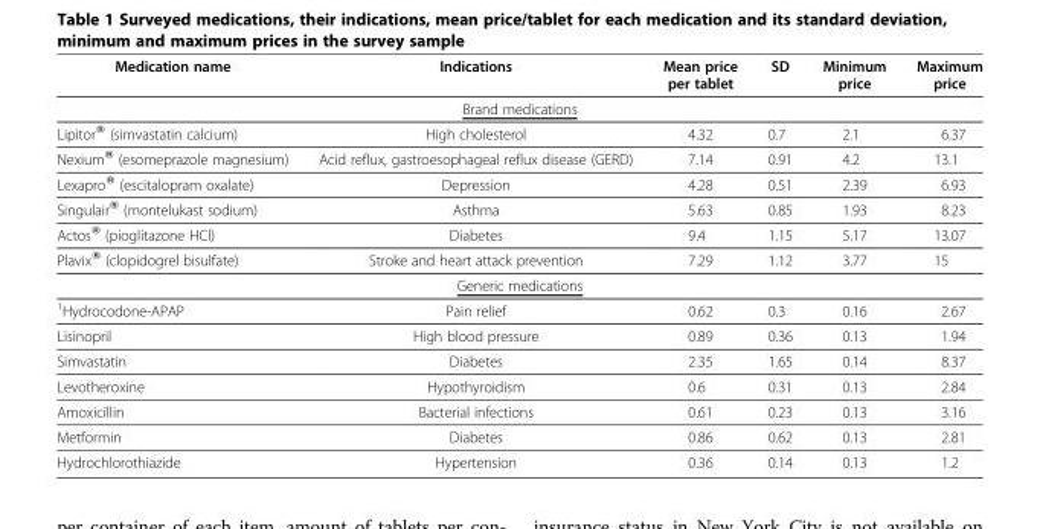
<table><thead><tr><td>Medication name</td><td>Indications</td><td>Mean price per tablet</td><td>SD</td><td>Minimum price</td><td>Maximum price</td></tr></thead><tbody><tr><td colspan="6">Brand medications</td></tr><tr><td>Lipitor® (simvastatin calcium)</td><td>High cholesterol</td><td>4.32</td><td>0.7</td><td>2.1</td><td>6.37</td></tr><tr><td>Nexium® (esomeprazole magnesium)</td><td>Acid reflux, gastroesophageal reflux disease (GERD)</td><td>7.14</td><td>0.91</td><td>4.2</td><td>13.1</td></tr><tr><td>Lexapro® (escitalopram oxalate)</td><td>Depression</td><td>4.28</td><td>0.51</td><td>2.39</td><td>6.93</td></tr><tr><td>Singulair® (montelukast sodium)</td><td>Asthma</td><td>5.63</td><td>0.85</td><td>1.93</td><td>8.23</td></tr><tr><td>Actos® (pioglitazone HCl)</td><td>Diabetes</td><td>9.4</td><td>1.15</td><td>5.17</td><td>13.07</td></tr><tr><td>Plavix® (clopidogrel bisulfate)</td><td>Stroke and heart attack prevention</td><td>7.29</td><td>1.12</td><td>3.77</td><td>15</td></tr><tr><td colspan="6">Generic medications</td></tr><tr><td><sup>1</sup>Hydrocodone-APAP</td><td>Pain relief</td><td>0.62</td><td>0.3</td><td>0.16</td><td>2.67</td></tr><tr><td>Lisinopril</td><td>High blood pressure</td><td>0.89</td><td>0.36</td><td>0.13</td><td>1.94</td></tr><tr><td>Simvastatin</td><td>Diabetes</td><td>2.35</td><td>1.65</td><td>0.14</td><td>8.37</td></tr><tr><td>Levotheroxine</td><td>Hypothyroidism</td><td>0.6</td><td>0.31</td><td>0.13</td><td>2.84</td></tr><tr><td>Amoxicillin</td><td>Bacterial infections</td><td>0.61</td><td>0.23</td><td>0.13</td><td>3.16</td></tr><tr><td>Metformin</td><td>Diabetes</td><td>0.86</td><td>0.62</td><td>0.13</td><td>2.81</td></tr><tr><td>Hydrochlorothiazide</td><td>Hypertension</td><td>0.36</td><td>0.14</td><td>0.13</td><td>1.2</td></tr></tbody></table>